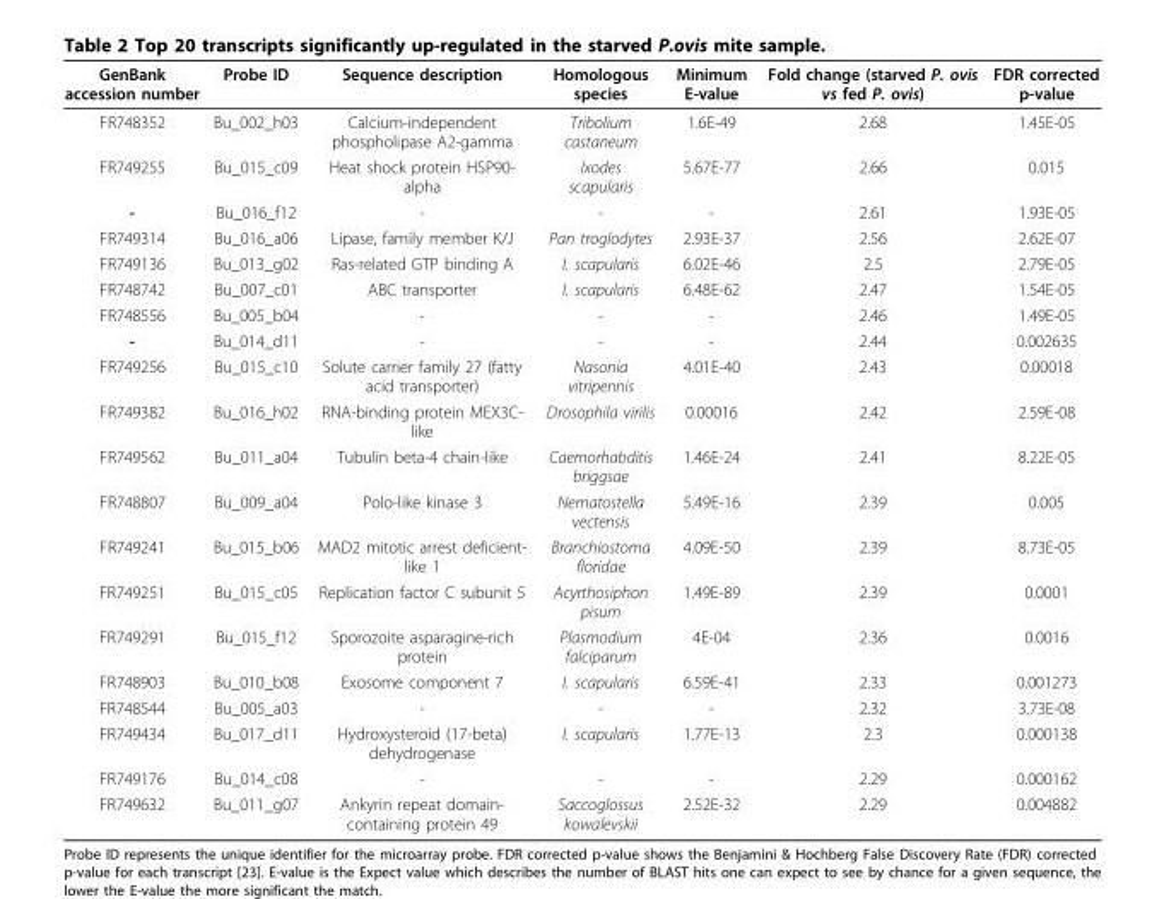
<table><thead><tr><td>GenBank accession number</td><td>Probe ID</td><td>Sequence description</td><td>Homologous species</td><td>Minimum E-value</td><td>Fold change (starved P. ovis vs fed P. ovis)</td><td>FDR corrected p-value</td></tr></thead><tbody><tr><td>FR748352</td><td>Bu_002_h03</td><td>Calcium-independent phospholipase A2-gamma</td><td>Tribolium castaneum</td><td>1.6E-49</td><td>2.68</td><td>1.45E-05</td></tr><tr><td>FR749255</td><td>Bu_015_c09</td><td>Heat shock protein HSP90- alpha</td><td>Ixodes scapularis</td><td>5.67E-77</td><td>2.66</td><td>0.015</td></tr><tr><td>-</td><td>Bu_016_f12</td><td>-</td><td>-</td><td>-</td><td>2.61</td><td>1.93E-05</td></tr><tr><td>FR749314</td><td>Bu_016_a06</td><td>Lipase, family member K/J</td><td>Pan troglodytes</td><td>2.93E-37</td><td>2.56</td><td>2.62E-07</td></tr><tr><td>FR749136</td><td>Bu_013_g02</td><td>Ras-related GTP binding A</td><td>I. scapularis</td><td>6.02E-46</td><td>2.5</td><td>2.79E-05</td></tr><tr><td>FR748742</td><td>Bu_007_c01</td><td>ABC transporter</td><td>I. scapularis</td><td>6.48E-62</td><td>2.47</td><td>1.54E-05</td></tr><tr><td>FR748556</td><td>Bu_005_b04</td><td>-</td><td>-</td><td>-</td><td>2.46</td><td>1.49E-05</td></tr><tr><td>-</td><td>Bu_014_d11</td><td>-</td><td>-</td><td>-</td><td>2.44</td><td>0.002635</td></tr><tr><td>FR749256</td><td>Bu_015_c10</td><td>Solute carrier family 27 (fatty acid transporter)</td><td>Nasonia vitripennis</td><td>4.01E-40</td><td>2.43</td><td>0.00018</td></tr><tr><td>FR749382</td><td>Bu_016_h02</td><td>RNA-binding protein MEX3C- like</td><td>Drosophila virilis</td><td>0.00016</td><td>2.42</td><td>2.59E-08</td></tr><tr><td>FR749562</td><td>Bu_011_a04</td><td>Tubulin beta-4 chain-like</td><td>Caernorhabditis briggsae</td><td>1.46E-24</td><td>2.41</td><td>8.22E-05</td></tr><tr><td>FR748807</td><td>Bu_009_a04</td><td>Polo-like kinase 3</td><td>Nematostella vectensis</td><td>5.49E-16</td><td>2.39</td><td>0.005</td></tr><tr><td>FR749241</td><td>Bu_015_b06</td><td>MAD2 mitotic arrest deficient- like 1</td><td>Branchiostoma floridae</td><td>4.09E-50</td><td>2.39</td><td>8.73E-05</td></tr><tr><td>FR749251</td><td>Bu_015_c05</td><td>Replication factor C subunit 5</td><td>Acyrthosiphon pisum</td><td>1.49E-89</td><td>2.39</td><td>0.0001</td></tr><tr><td>FR749291</td><td>Bu_015_f12</td><td>Sporozoite asparagine-rich protein</td><td>Plasmodium falciparum</td><td>4E-04</td><td>2.36</td><td>0.0016</td></tr><tr><td>FR748903</td><td>Bu_010_b08</td><td>Exosome component 7</td><td>I. scapularis</td><td>6.59E-41</td><td>2.33</td><td>0.001273</td></tr><tr><td>FR748544</td><td>Bu_005_a03</td><td>-</td><td>-</td><td>-</td><td>2.32</td><td>3.73E-08</td></tr><tr><td>FR749434</td><td>Bu_017_d11</td><td>Hydroxysteroid (17-beta) dehydrogenase</td><td>I. scapularis</td><td>1.77E-13</td><td>2.3</td><td>0.000138</td></tr><tr><td>FR749176</td><td>Bu_014_c08</td><td>-</td><td>-</td><td>-</td><td>2.29</td><td>0.000162</td></tr><tr><td>FR749632</td><td>Bu_011_g07</td><td>Ankyrin repeat domain- containing protein 49</td><td>Saccoglossus kowalevskii</td><td>2.52E-32</td><td>2.29</td><td>0.004882</td></tr></tbody></table>